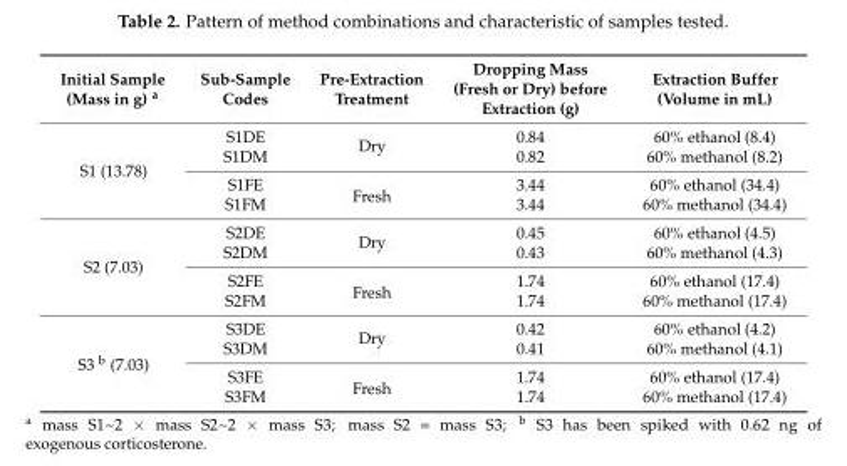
<table><thead><tr><td>Initial Sample (Mass in g) <sup>a</sup></td><td>Sub-Sample Codes</td><td>Pre-Extraction Treatment</td><td>Dropping Mass (Fresh or Dry) before Extraction (g)</td><td>Extraction Buffer (Volume in mL)</td></tr></thead><tbody><tr><td rowspan="4">S1 (13.78)</td><td>S1DE</td><td rowspan="2">Dry</td><td>0.84</td><td>60% ethanol (8.4)</td></tr><tr><td>S1DM</td><td>0.82</td><td>60% methanol (8.2)</td></tr><tr><td>S1FE</td><td rowspan="2">Fresh</td><td>3.44</td><td>60% ethanol (34.4)</td></tr><tr><td>S1FM</td><td>3.44</td><td>60% methanol (34.4)</td></tr><tr><td rowspan="4">S2 (7.03)</td><td>S2DE</td><td rowspan="2">Dry</td><td>0.45</td><td>60% ethanol (4.5)</td></tr><tr><td>S2DM</td><td>0.43</td><td>60% methanol (4.3)</td></tr><tr><td>S2FE</td><td rowspan="2">Fresh</td><td>1.74</td><td>60% ethanol (17.4)</td></tr><tr><td>S2FM</td><td>1.74</td><td>60% methanol (17.4)</td></tr><tr><td rowspan="4">S3 <sup>b</sup> (7.03)</td><td>S3DE</td><td rowspan="2">Dry</td><td>0.42</td><td>60% ethanol (4.2)</td></tr><tr><td>S3DM</td><td>0.41</td><td>60% methanol (4.1)</td></tr><tr><td>S3FE</td><td rowspan="2">Fresh</td><td>1.74</td><td>60% ethanol (17.4)</td></tr><tr><td>S3FM</td><td>1.74</td><td>60% methanol (17.4)</td></tr></tbody></table>